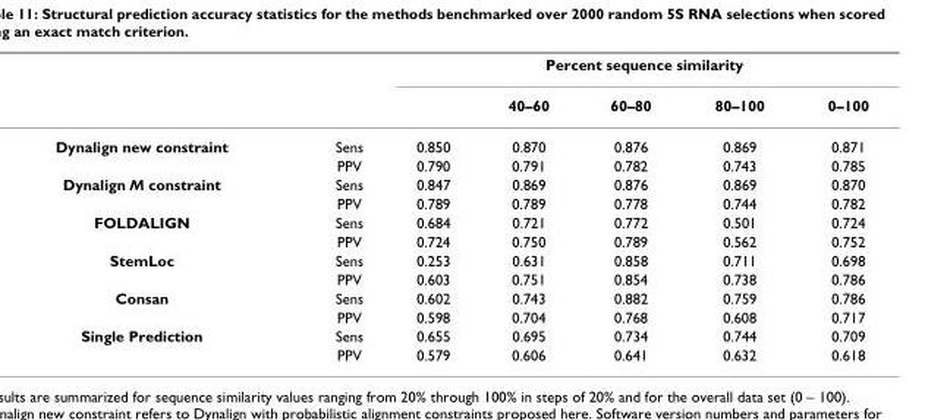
<table><thead><tr><td rowspan="2"></td><td rowspan="2"></td><td colspan="5">Percent sequence similarity</td></tr><tr><td></td><td>40–60</td><td>60–80</td><td>80–100</td><td>0–100</td></tr></thead><tbody><tr><td rowspan="2">Dynalign new constraint</td><td>Sens</td><td>0.850</td><td>0.870</td><td>0.876</td><td>0.869</td><td>0.871</td></tr><tr><td>PPV</td><td>0.790</td><td>0.791</td><td>0.782</td><td>0.743</td><td>0.785</td></tr><tr><td rowspan="2">Dynalign M constraint</td><td>Sens</td><td>0.847</td><td>0.869</td><td>0.876</td><td>0.869</td><td>0.870</td></tr><tr><td>PPV</td><td>0.789</td><td>0.789</td><td>0.778</td><td>0.744</td><td>0.782</td></tr><tr><td rowspan="2">FOLDALIGN</td><td>Sens</td><td>0.684</td><td>0.721</td><td>0.772</td><td>0.501</td><td>0.724</td></tr><tr><td>PPV</td><td>0.724</td><td>0.750</td><td>0.789</td><td>0.562</td><td>0.752</td></tr><tr><td rowspan="2">StemLoc</td><td>Sens</td><td>0.253</td><td>0.631</td><td>0.858</td><td>0.711</td><td>0.698</td></tr><tr><td>PPV</td><td>0.603</td><td>0.751</td><td>0.854</td><td>0.738</td><td>0.786</td></tr><tr><td rowspan="2">Consan</td><td>Sens</td><td>0.602</td><td>0.743</td><td>0.882</td><td>0.759</td><td>0.786</td></tr><tr><td>PPV</td><td>0.598</td><td>0.704</td><td>0.768</td><td>0.608</td><td>0.717</td></tr><tr><td rowspan="2">Single Prediction</td><td>Sens</td><td>0.655</td><td>0.695</td><td>0.734</td><td>0.744</td><td>0.709</td></tr><tr><td>PPV</td><td>0.579</td><td>0.606</td><td>0.641</td><td>0.632</td><td>0.618</td></tr></tbody></table>